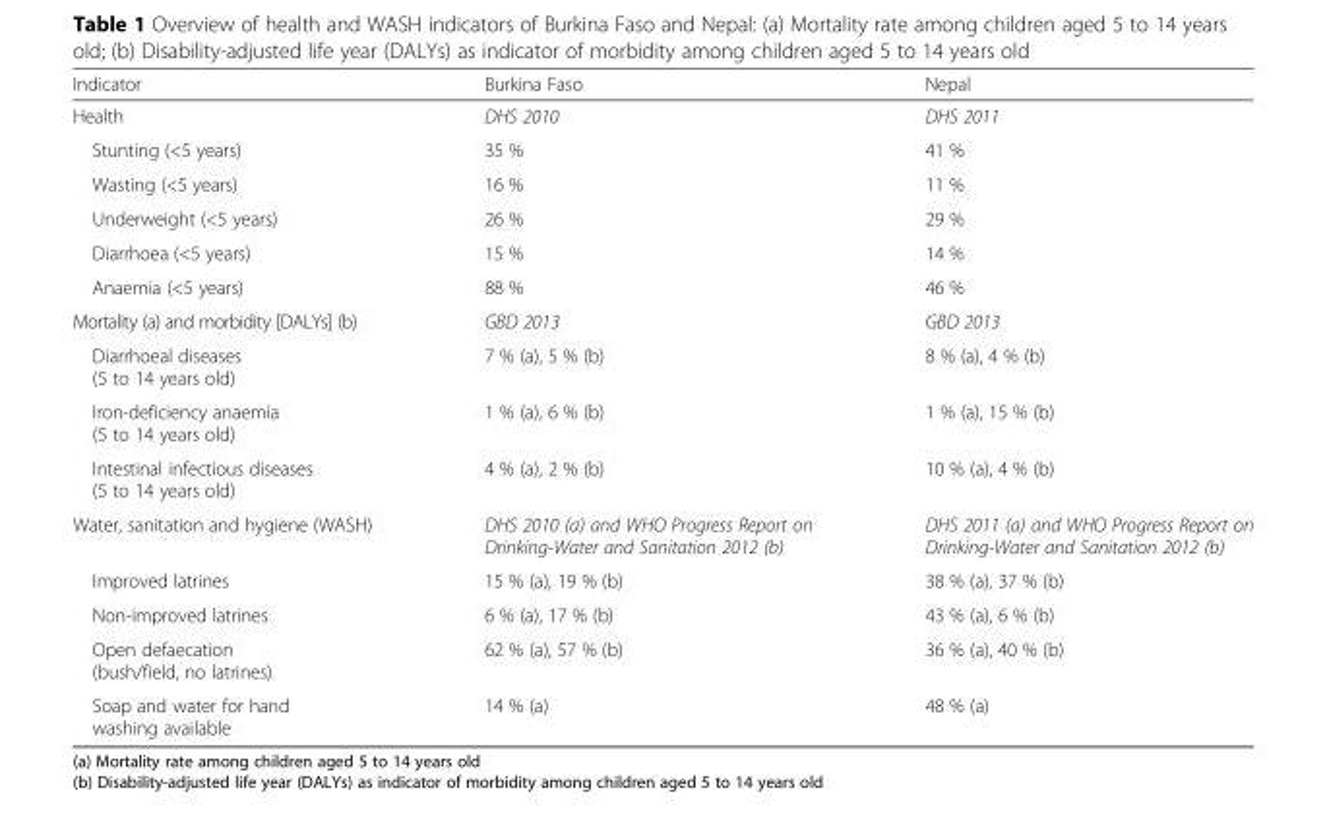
<table><thead><tr><td>Indicator</td><td>Burkina Faso</td><td>Nepal</td></tr></thead><tbody><tr><td>Health</td><td>DHS 2010</td><td>DHS 2011</td></tr><tr><td>Stunting (&lt;5 years)</td><td>35 %</td><td>41 %</td></tr><tr><td>Wasting (&lt;5 years)</td><td>16 %</td><td>11 %</td></tr><tr><td>Underweight (&lt;5 years)</td><td>26 %</td><td>29 %</td></tr><tr><td>Diarrhoea (&lt;5 years)</td><td>15 %</td><td>14 %</td></tr><tr><td>Anaemia (&lt;5 years)</td><td>88 %</td><td>46 %</td></tr><tr><td>Mortality (a) and morbidity [DALYs] (b)</td><td>GBD 2013</td><td>GBD 2013</td></tr><tr><td>Diarrhoeal diseases (5 to 14 years old)</td><td>7 % (a), 5 % (b)</td><td>8 % (a), 4 % (b)</td></tr><tr><td>Iron-deficiency anaemia (5 to 14 years old)</td><td>1 % (a), 6 % (b)</td><td>1 % (a), 15 % (b)</td></tr><tr><td>Intestinal infectious diseases (5 to 14 years old)</td><td>4 % (a), 2 % (b)</td><td>10 % (a), 4 % (b)</td></tr><tr><td>Water, sanitation and hygiene (WASH)</td><td>DHS 2010 (a) and WHO Progress Report on Drinking-Water and Sanitation 2012 (b)</td><td>DHS 2011 (a) and WHO Progress Report on Drinking-Water and Sanitation 2012 (b)</td></tr><tr><td>Improved latrines</td><td>15 % (a), 19 % (b)</td><td>38 % (a), 37 % (b)</td></tr><tr><td>Non-improved latrines</td><td>6 % (a), 17 % (b)</td><td>43 % (a), 6 % (b)</td></tr><tr><td>Open defaecation (bush/field, no latrines)</td><td>62 % (a), 57 % (b)</td><td>36 % (a), 40 % (b)</td></tr><tr><td>Soap and water for hand washing available</td><td>14 % (a)</td><td>48 % (a)</td></tr></tbody></table>